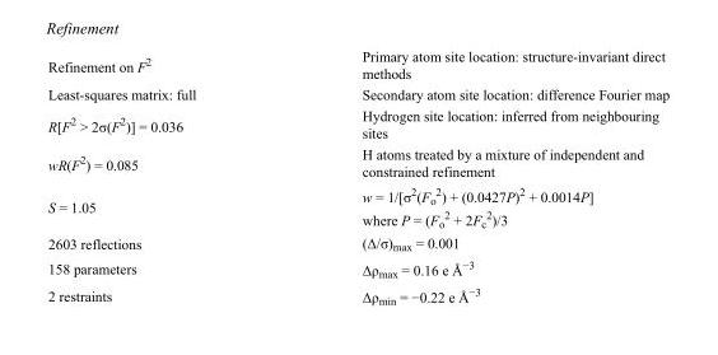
<table><tbody><tr><td>Refinement on F<sup>2</sup></td><td>Primary atom site location: structure-invariant direct methods</td></tr><tr><td>Least-squares matrix: full</td><td>Secondary atom site location: difference Fourier map</td></tr><tr><td>R[F<sup>2</sup> &gt; 2σ(F<sup>2</sup>)] = 0.036</td><td>Hydrogen site location: inferred from neighbouring sites</td></tr><tr><td>wR(F<sup>2</sup>) = 0.085</td><td>H atoms treated by a mixture of independent and constrained refinement</td></tr><tr><td>S = 1.05</td><td>w = 1/[σ<sup>2</sup>(F<sub>o</sub> <sup>2</sup>) + (0.0427P)<sup>2</sup> + 0.0014P] where P = (F<sub>o</sub> <sup>2</sup> + 2F<sub>c</sub> <sup>2</sup>)/3</td></tr><tr><td>2603 reflections</td><td>(Δ/σ)<sub>max</sub> = 0.001</td></tr><tr><td>158 parameters</td><td>Δρ<sub>max</sub> = 0.16 e Å<sup>−3</sup></td></tr><tr><td>2 restraints</td><td>Δρ<sub>min</sub> = −0.22 e Å<sup>−3</sup></td></tr></tbody></table>